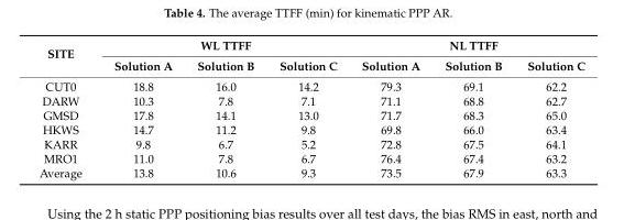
<table><thead><tr><td rowspan="2">SITE</td><td colspan="3">WL TTFF</td><td colspan="3">NL TTFF</td></tr><tr><td>Solution A</td><td>Solution B</td><td>Solution C</td><td>Solution A</td><td>Solution B</td><td>Solution C</td></tr></thead><tbody><tr><td>CUT0</td><td>18.8</td><td>16.0</td><td>14.2</td><td>79.3</td><td>69.1</td><td>62.2</td></tr><tr><td>DARW</td><td>10.3</td><td>7.8</td><td>7.1</td><td>71.1</td><td>68.8</td><td>62.7</td></tr><tr><td>GMSD</td><td>17.8</td><td>14.1</td><td>13.0</td><td>71.7</td><td>68.3</td><td>65.0</td></tr><tr><td>HKWS</td><td>14.7</td><td>11.2</td><td>9.8</td><td>69.8</td><td>66.0</td><td>63.4</td></tr><tr><td>KARR</td><td>9.8</td><td>6.7</td><td>5.2</td><td>72.8</td><td>67.5</td><td>64.1</td></tr><tr><td>MRO1</td><td>11.0</td><td>7.8</td><td>6.7</td><td>76.4</td><td>67.4</td><td>63.2</td></tr><tr><td>Average</td><td>13.8</td><td>10.6</td><td>9.3</td><td>73.5</td><td>67.9</td><td>63.3</td></tr></tbody></table>